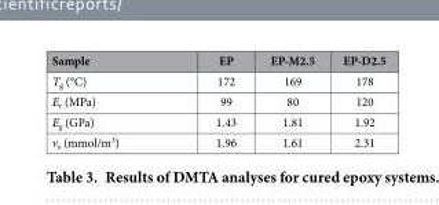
<table><thead><tr><td>Sample</td><td>EP</td><td>EP-M2.5</td><td>EP-D2.5</td></tr></thead><tbody><tr><td>T<sub>g</sub> (°C)</td><td>172</td><td>169</td><td>178</td></tr><tr><td>E<sub>r</sub> (MPa)</td><td>99</td><td>80</td><td>120</td></tr><tr><td>E<sub>g</sub> (GPa)</td><td>1.43</td><td>1.81</td><td>1.92</td></tr><tr><td>v<sub>e</sub> (mmol/m<sup>3</sup>)</td><td>1.96</td><td>1.61</td><td>2.31</td></tr></tbody></table>